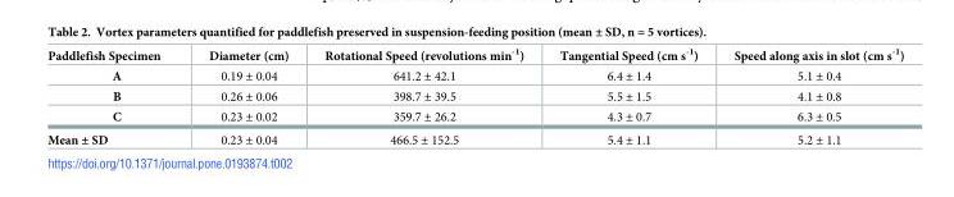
<table><thead><tr><td>Paddlefish Specimen</td><td>Diameter (cm)</td><td>Rotational Speed (revolutions min<sup>-1</sup>)</td><td>Tangential Speed (cm s<sup>-1</sup>)</td><td>Speed along axis in slot (cm s<sup>-1</sup>)</td></tr></thead><tbody><tr><td>A</td><td>0.19 ± 0.04</td><td>641.2 ± 42.1</td><td>6.4 ± 1.4</td><td>5.1 ± 0.4</td></tr><tr><td>B</td><td>0.26 ± 0.06</td><td>398.7 ± 39.5</td><td>5.5 ± 1.5</td><td>4.1 ± 0.8</td></tr><tr><td>C</td><td>0.23 ± 0.02</td><td>359.7 ± 26.2</td><td>4.3 ± 0.7</td><td>6.3 ± 0.5</td></tr><tr><td>Mean ± SD</td><td>0.23 ± 0.04</td><td>466.5 ± 152.5</td><td>5.4 ± 1.1</td><td>5.2 ± 1.1</td></tr></tbody></table>